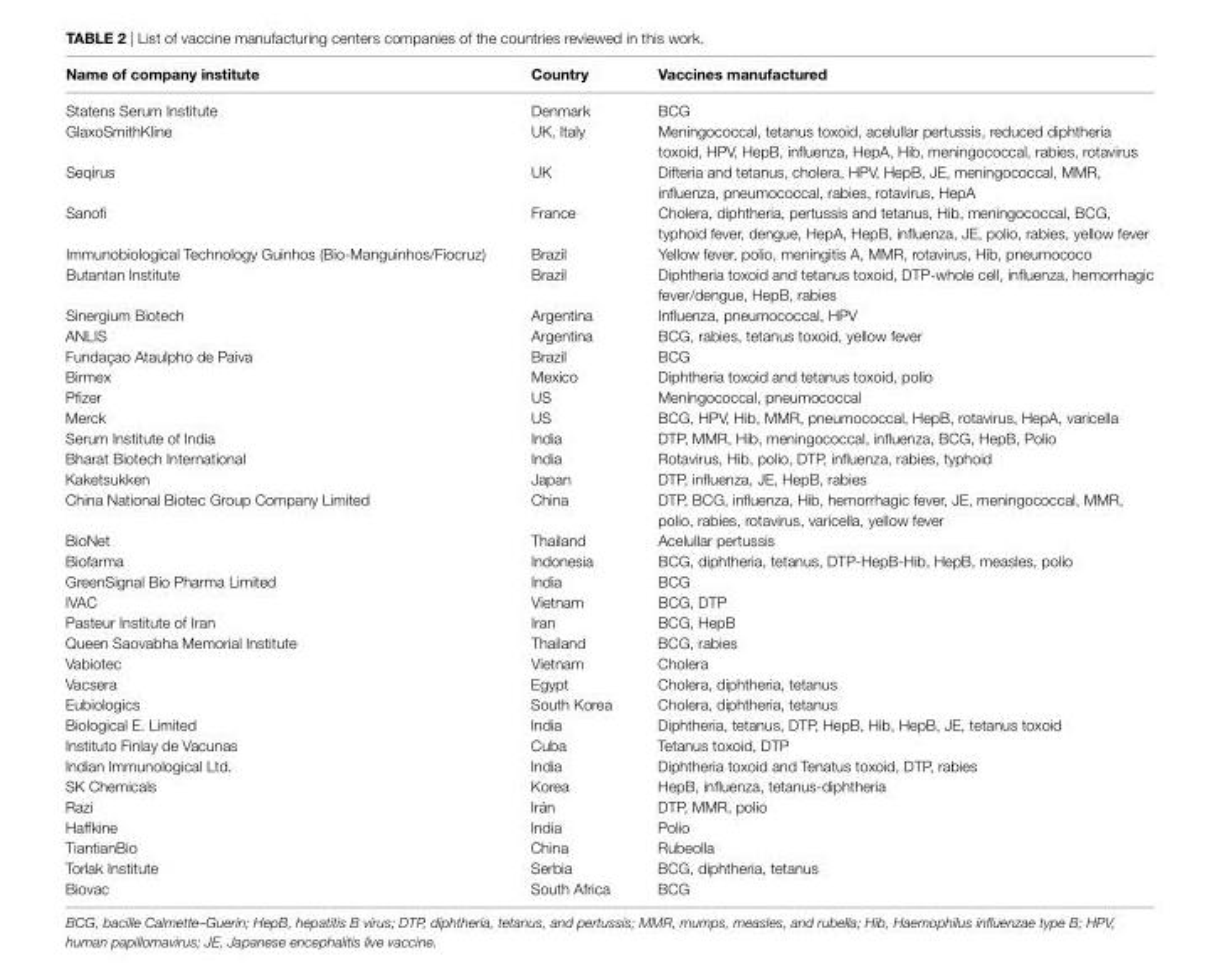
<table><thead><tr><td>Name of company institute</td><td>Country</td><td>vaccines manufactured</td></tr></thead><tbody><tr><td>Statens Serum Institute</td><td>Denmark</td><td>BCG</td></tr><tr><td>GlaxoSmithKline</td><td>UK, Italy</td><td>Meningococcal, tetanus toxoid, acelullar pertussis, reduced diphtheria toxoid, HPV, HepB, influenza, HepA, Hib, meningococcal, rabies, rotavirus</td></tr><tr><td>Seqirus</td><td>UK</td><td>Difteria and tetanus, cholera, HPV, HepB, JE, meningococcal, MMR, influenza, pneumococcal, rabies, rotavirus, HepA</td></tr><tr><td>Sanofi</td><td>France</td><td>Cholera, diphtheria, pertussis and tetanus, Hib, meningococcal, BCG, typhoid fever, dengue, HepA, HepB, influenza, JE, polio, rabies, yellow fever</td></tr><tr><td>Immunobiological Technology Guinhos (Bio-Manguinhos/Fiocruz)</td><td>Brazil</td><td>Yellow fever, polio, meningitis A, MMR, rotavirus, Hib, pneumococo</td></tr><tr><td>Butantan Institute</td><td>Brazil</td><td>Diphtheria toxoid and tetanus toxoid, DTP-whole cell, influenza, hemorrhagic fever/dengue, HepB, rabies</td></tr><tr><td>Sinergium Biotech</td><td>Argentina</td><td>Influenza, pneumococcal, HPV</td></tr><tr><td>ANLIS</td><td>Argentina</td><td>BCG, rabies, tetanus toxoid, yellow fever</td></tr><tr><td>Fundaçao Ataulpho de Paiva</td><td>Brazil</td><td>BCG</td></tr><tr><td>Birmex</td><td>Mexico</td><td>Diphtheria toxoid and tetanus toxoid, polio</td></tr><tr><td>Pfizer</td><td>US</td><td>Meningococcal, pneumococcal</td></tr><tr><td>Merck</td><td>US</td><td>BCG, HPV, Hib, MMR, pneumococcal, HepB, rotavirus, HepA, varicella</td></tr><tr><td>Serum Institute of India</td><td>India</td><td>DTP, MMR, Hib, meningococcal, influenza, BCG, HepB, Polio</td></tr><tr><td>Bharat Biotech International</td><td>India</td><td>Rotavirus, Hib, polio, DTP, influenza, rabies, typhoid</td></tr><tr><td>Kaketsukken</td><td>Japan</td><td>DTP, influenza, JE, HepB, rabies</td></tr><tr><td>China National Biotec Group Company Limited</td><td>China</td><td>DTP, BCG, influenza, Hib, hemorrhagic fever, JE, meningococcal, MMR, polio, rabies, rotavirus, varicella, yellow fever</td></tr><tr><td>BioNet</td><td>Thailand</td><td>Acelullar pertussis</td></tr><tr><td>Biofarma</td><td>Indonesia</td><td>BCG, diphtheria, tetanus, DTP-HepB-Hib, HepB, measles, polio</td></tr><tr><td>GreenSignal Bio Pharma Limited</td><td>India</td><td>BCG</td></tr><tr><td>IVAC</td><td>Vietnam</td><td>BCG, DTP</td></tr><tr><td>Pasteur Institute of Iran</td><td>Iran</td><td>BCG, HepB</td></tr><tr><td>Queen Saovabha Memorial Institute</td><td>Thailand</td><td>BCG, rabies</td></tr><tr><td>Vabiotec</td><td>Vietnam</td><td>Cholera</td></tr><tr><td>Vacsera</td><td>Egypt</td><td>Cholera, diphtheria, tetanus</td></tr><tr><td>Eubiologics</td><td>South Korea</td><td>Cholera, diphtheria, tetanus</td></tr><tr><td>Biological E. Limited</td><td>India</td><td>Diphtheria, tetanus, DTP, HepB, Hib, HepB, JE, tetanus toxoid</td></tr><tr><td>Instituto Finlay de Vacunas</td><td>Cuba</td><td>Tetanus toxoid, DTP</td></tr><tr><td>Indian Immunological Ltd.</td><td>India</td><td>Diphtheria toxoid and Tenatus toxoid, DTP, rabies</td></tr><tr><td>SK Chemicals</td><td>Korea</td><td>HepB, influenza, tetanus-diphtheria</td></tr><tr><td>Razi</td><td>Irán</td><td>DTP, MMR, polio</td></tr><tr><td>Haffkine</td><td>India</td><td>Polio</td></tr><tr><td>TiantianBio</td><td>China</td><td>Rubeolla</td></tr><tr><td>Torlak Institute</td><td>Serbia</td><td>BCG, diphtheria, tetanus</td></tr><tr><td>Biovac</td><td>South Africa</td><td>BCG</td></tr></tbody></table>